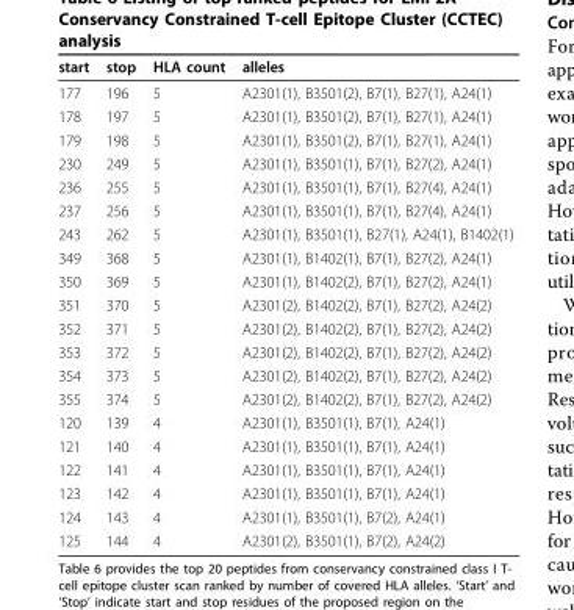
<table><thead><tr><td>start</td><td>stop</td><td>HLA count</td><td>alleles</td></tr></thead><tbody><tr><td>177</td><td>196</td><td>5</td><td>A2301(1), B3501(2), B7(1), B27(1), A24(1)</td></tr><tr><td>178</td><td>197</td><td>5</td><td>A2301(1), B3501(2), B7(1), B27(1), A24(1)</td></tr><tr><td>179</td><td>198</td><td>5</td><td>A2301(1), B3501(2), B7(1), B27(1), A24(1)</td></tr><tr><td>230</td><td>249</td><td>5</td><td>A2301(1), B3501(1), B7(1), B27(2), A24(1)</td></tr><tr><td>236</td><td>255</td><td>5</td><td>A2301(1), B3501(1), B7(1), B27(4), A24(1)</td></tr><tr><td>237</td><td>256</td><td>5</td><td>A2301(1), B3501(1), B7(1), B27(4), A24(1)</td></tr><tr><td>243</td><td>262</td><td>5</td><td>A2301(1), B3501(1), B27(1), A24(1), B1402(1)</td></tr><tr><td>349</td><td>368</td><td>5</td><td>A2301(1), B1402(1), B7(1), B27(2), A24(1)</td></tr><tr><td>350</td><td>369</td><td>5</td><td>A2301(1), B1402(2), B7(1), B27(2), A24(1)</td></tr><tr><td>351</td><td>370</td><td>5</td><td>A2301(2), B1402(2), B7(1), B27(2), A24(2)</td></tr><tr><td>352</td><td>371</td><td>5</td><td>A2301(2), B1402(2), B7(1), B27(2), A24(2)</td></tr><tr><td>353</td><td>372</td><td>5</td><td>A2301(2), B1402(2), B7(1), B27(2), A24(2)</td></tr><tr><td>354</td><td>373</td><td>5</td><td>A2301(2), B1402(2), B7(1), B27(2), A24(2)</td></tr><tr><td>355</td><td>374</td><td>5</td><td>A2301(2), B1402(2), B7(1), B27(2), A24(2)</td></tr><tr><td>120</td><td>139</td><td>4</td><td>A2301(1), B3501(1), B7(1), A24(1)</td></tr><tr><td>121</td><td>140</td><td>4</td><td>A2301(1), B3501(1), B7(1), A24(1)</td></tr><tr><td>122</td><td>141</td><td>4</td><td>A2301(1), B3501(1), B7(1), A24(1)</td></tr><tr><td>123</td><td>142</td><td>4</td><td>A2301(1), B3501(1), B7(1), A24(1)</td></tr><tr><td>124</td><td>143</td><td>4</td><td>A2301(1), B3501(1), B7(2), A24(1)</td></tr><tr><td>125</td><td>144</td><td>4</td><td>A2301(2), B3501(1), B7(2), A24(2)</td></tr></tbody></table>